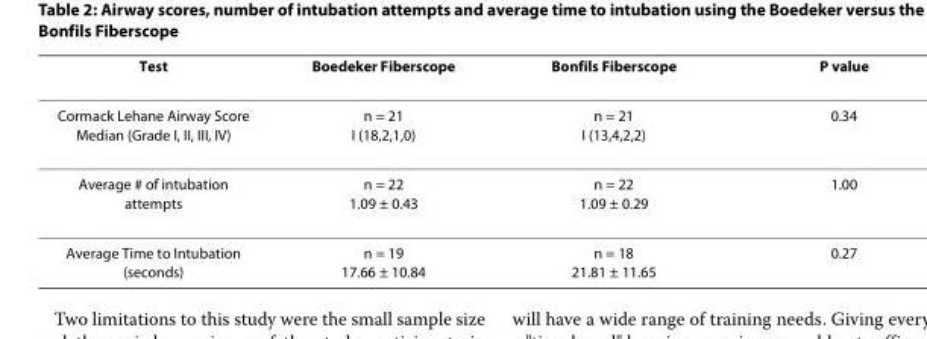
<table><thead><tr><td>Test</td><td>Boedeker Fiberscope</td><td>Bonfils Fiberscope</td><td>P value</td></tr></thead><tbody><tr><td>Cormack Lehane Airway Score Median (Grade I, II, III, IV)</td><td>n = 21 I (18,2,1,0)</td><td>n = 21 I (13,4,2,2)</td><td>0.34</td></tr><tr><td>Average # of intubation attempts</td><td>n = 22 1.09 ± 0.43</td><td>n = 22 1.09 ± 0.29</td><td>1.00</td></tr><tr><td>Average Time to Intubation (seconds)</td><td>n = 19 17.66 ± 10.84</td><td>n = 18 21.81 ± 11.65</td><td>0.27</td></tr></tbody></table>